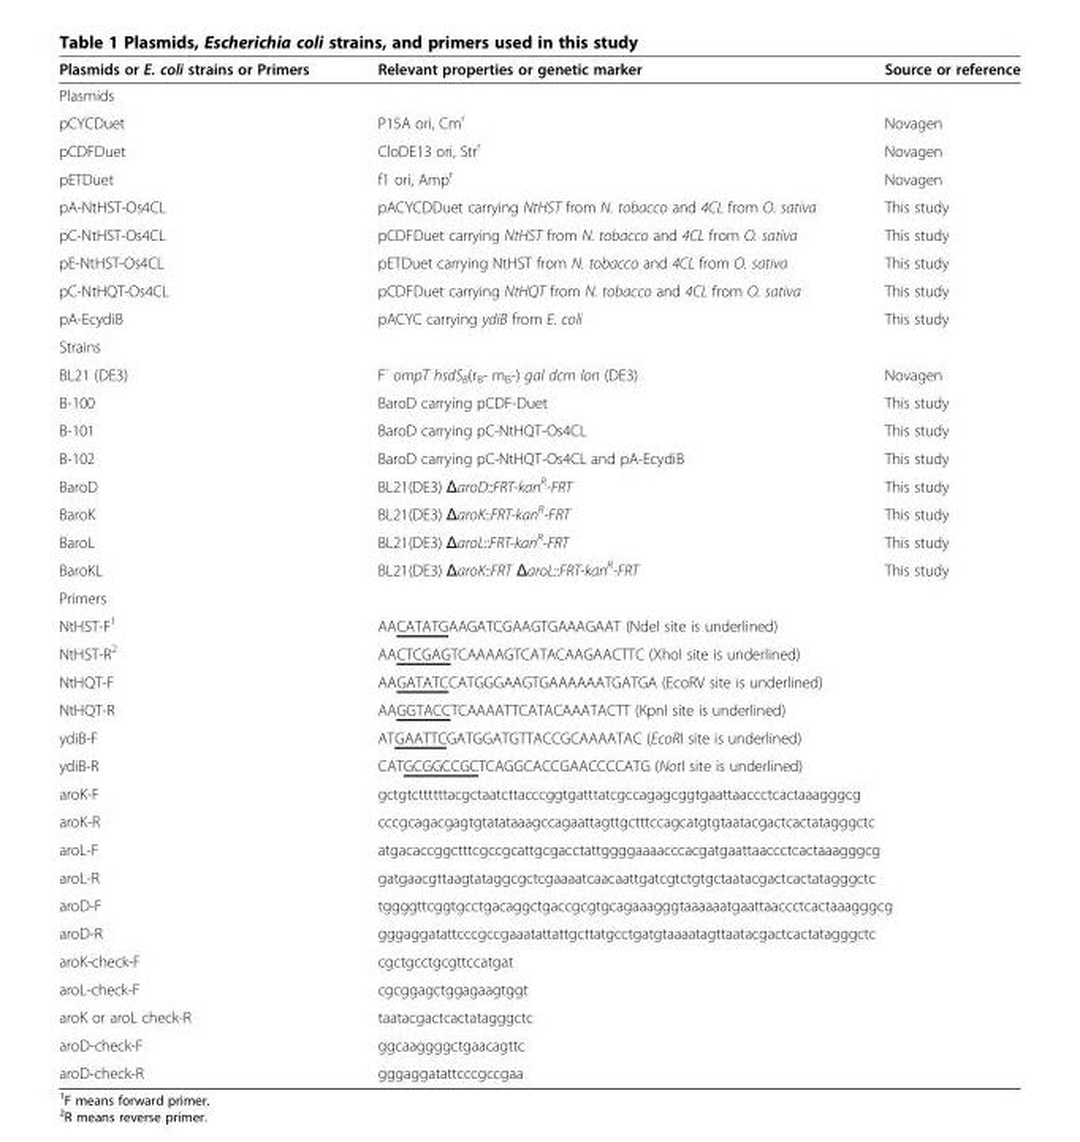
<table><thead><tr><td>Plasmids or E. coli strains or Primers</td><td>Relevant properties or genetic marker</td><td>Source or reference</td></tr></thead><tbody><tr><td colspan="3">Plasmids</td></tr><tr><td>pCYCDuet</td><td>P15A ori, Cm<sup>r</sup></td><td>Novagen</td></tr><tr><td>pCDFDuet</td><td>CloDE13 ori, Str<sup>r</sup></td><td>Novagen</td></tr><tr><td>pETDuet</td><td>f1 ori, Amp<sup>r</sup></td><td>Novagen</td></tr><tr><td>pA-NtHST-Os4CL</td><td>pACYCDDuet carrying NtHST from N. tobacco and 4CL from O. sativa</td><td>This study</td></tr><tr><td>pC-NtHST-Os4CL</td><td>pCDFDuet carrying NtHST from N. tobacco and 4CL from O. sativa</td><td>This study</td></tr><tr><td>pE-NtHST-Os4CL</td><td>pETDuet carrying NtHST from N. tobacco and 4CL from O. sativa</td><td>This study</td></tr><tr><td>pC-NtHQT-Os4CL</td><td>pCDFDuet carrying NtHQT from N. tobacco and 4CL from O. sativa</td><td>This study</td></tr><tr><td>pA-EcydiB</td><td>pACYC carrying ydiB from E. coli</td><td>This study</td></tr><tr><td colspan="3">Strains</td></tr><tr><td>BL21 (DE3)</td><td>F<sup>-</sup> ompT hsdS<sub>B</sub>(r<sub>B</sub>- m<sub>B</sub>-) gal dcm lon (DE3)</td><td>Novagen</td></tr><tr><td>B-100</td><td>BaroD carrying pCDF-Duet</td><td>This study</td></tr><tr><td>B-101</td><td>BaroD carrying pC-NtHQT-Os4CL</td><td>This study</td></tr><tr><td>B-102</td><td>BaroD carrying pC-NtHQT-Os4CL and pA-EcydiB</td><td>This study</td></tr><tr><td>BaroD</td><td>BL21(DE3) ΔaroD::FRT-kan<sup>R</sup>-FRT</td><td>This study</td></tr><tr><td>BaroK</td><td>BL21(DE3) ΔaroK::FRT-kan<sup>R</sup>-FRT</td><td>This study</td></tr><tr><td>BaroL</td><td>BL21(DE3) ΔaroL::FRT-kan<sup>R</sup>-FRT</td><td>This study</td></tr><tr><td>BaroKL</td><td>BL21(DE3) ΔaroK::FRT ΔaroL::FRT-kan<sup>R</sup>-FRT</td><td>This study</td></tr><tr><td colspan="3">Primers</td></tr><tr><td>NtHST-F<sup>1</sup></td><td colspan="2">AACATATGAAGATCGAAGTGAAAGAAT (NdeI site is underlined)</td></tr><tr><td>NtHST-R<sup>2</sup></td><td colspan="2">AACTCGAGTCAAAAGTCATACAAGAACTTC (XhoI site is underlined)</td></tr><tr><td>NtHQT-F</td><td colspan="2">AAGATATCCATGGGAAGTGAAAAAATGATGA (EcoRV site is underlined)</td></tr><tr><td>NtHQT-R</td><td colspan="2">AAGGTACCTCAAAATTCATACAAATACTT (KpnI site is underlined)</td></tr><tr><td>ydiB-F</td><td colspan="2">ATGAATTCGATGGATGTTACCGCAAAATAC (EcoRI site is underlined)</td></tr><tr><td>ydiB-R</td><td colspan="2">CATGCGGCCGCTCAGGCACCGAACCCCATG (NotI site is underlined)</td></tr><tr><td>aroK-F</td><td colspan="2">gctgtcttttttacgctaatcttacccggtgatttatcgccagagcggtgaattaaccctcactaaagggcg</td></tr><tr><td>aroK-R</td><td colspan="2">cccgcagacgagtgtatataaagccagaattagttgctttccagcatgtgtaatacgactcactatagggctc</td></tr><tr><td>aroL-F</td><td colspan="2">atgacaccggctttcgccgcattgcgacctattggggaaaacccacgatgaattaaccctcactaaagggcg</td></tr><tr><td>aroL-R</td><td colspan="2">gatgaacgttaagtataggcgctcgaaaatcaacaattgatcgtctgtgctaatacgactcactatagggctc</td></tr><tr><td>aroD-F</td><td colspan="2">tggggttcggtgcctgacaggctgaccgcgtgcagaaagggtaaaaaatgaattaaccctcactaaagggcg</td></tr><tr><td>aroD-R</td><td colspan="2">gggaggatattcccgccgaaatattattgcttatgcctgatgtaaaatagttaatacgactcactatagggctc</td></tr><tr><td>aroK-check-F</td><td colspan="2">cgctgcctgcgttccatgat</td></tr><tr><td>aroL-check-F</td><td colspan="2">cgcggagctggagaagtggt</td></tr><tr><td>aroK or aroL check-R</td><td colspan="2">taatacgactcactatagggctc</td></tr><tr><td>aroD-check-F</td><td colspan="2">ggcaaggggctgaacagttc</td></tr><tr><td>aroD-check-R</td><td colspan="2">gggaggatattcccgccgaa</td></tr></tbody></table>